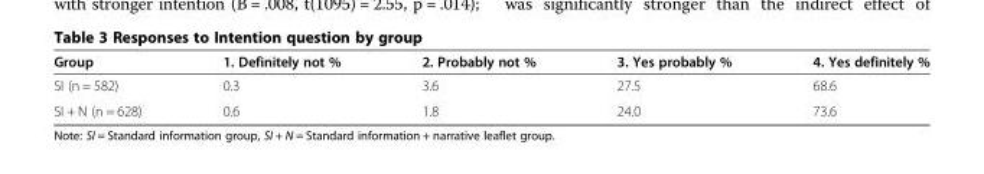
<table><thead><tr><td>Group</td><td>1. Definitely not %</td><td>2. Probably not %</td><td>3. Yes probably %</td><td>4. Yes definitely %</td></tr></thead><tbody><tr><td>SI (n = 582)</td><td>0.3</td><td>3.6</td><td>27.5</td><td>68.6</td></tr><tr><td>SI + N (n = 628)</td><td>0.6</td><td>1.8</td><td>24.0</td><td>73.6</td></tr></tbody></table>